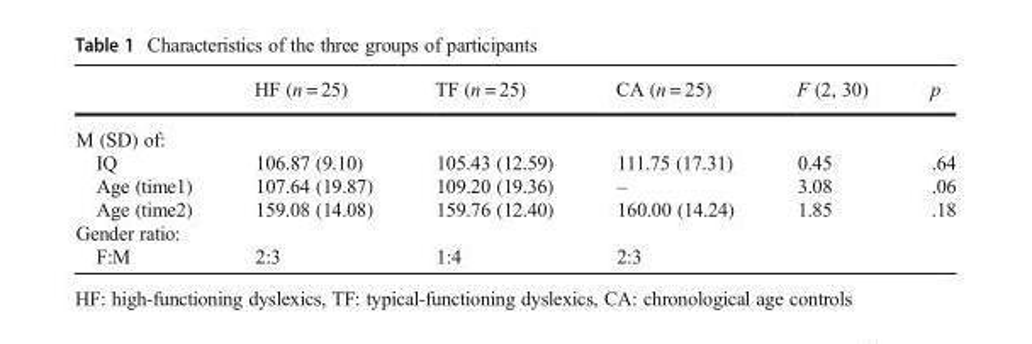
<table><thead><tr><td></td><td>HF (n = 25)</td><td>TF (n = 25)</td><td>CA (n = 25)</td><td>F (2, 30)</td><td>p</td></tr></thead><tbody><tr><td colspan="6">M (SD) of:</td></tr><tr><td>IQ</td><td>106.87 (9.10)</td><td>105.43 (12.59)</td><td>111.75 (17.31)</td><td>0.45</td><td>.64</td></tr><tr><td>Age (time1)</td><td>107.64 (19.87)</td><td>109.20 (19.36)</td><td>–</td><td>3.08</td><td>.06</td></tr><tr><td>Age (time2)</td><td>159.08 (14.08)</td><td>159.76 (12.40)</td><td>160.00 (14.24)</td><td>1.85</td><td>.18</td></tr><tr><td colspan="6">Gender ratio:</td></tr><tr><td>F:M</td><td>2:3</td><td>1:4</td><td>2:3</td><td></td><td></td></tr></tbody></table>